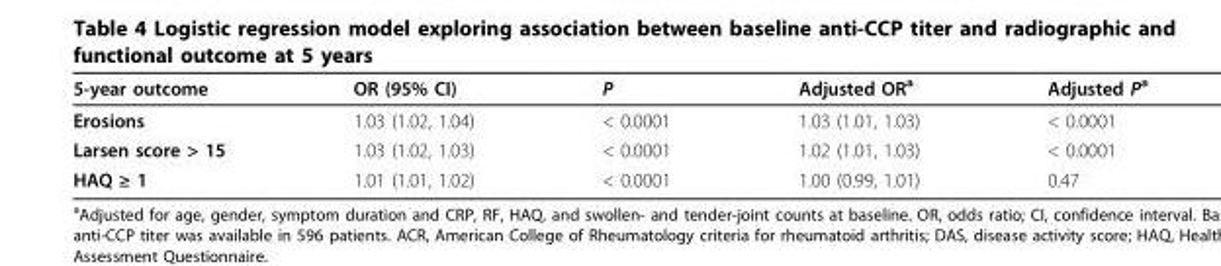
<table><thead><tr><td>5-year outcome</td><td>OR (95% CI)</td><td>P</td><td>Adjusted OR<sup>a</sup></td><td>Adjusted P<sup>a</sup></td></tr></thead><tbody><tr><td>Erosions</td><td>1.03 (1.02, 1.04)</td><td>&lt; 0.0001</td><td>1.03 (1.01, 1.03)</td><td>&lt; 0.0001</td></tr><tr><td>Larsen score &gt; 15</td><td>1.03 (1.02, 1.03)</td><td>&lt; 0.0001</td><td>1.02 (1.01, 1.03)</td><td>&lt; 0.0001</td></tr><tr><td>HAQ ≥ 1</td><td>1.01 (1.01, 1.02)</td><td>&lt; 0.0001</td><td>1.00 (0.99, 1.01)</td><td>0.47</td></tr></tbody></table>